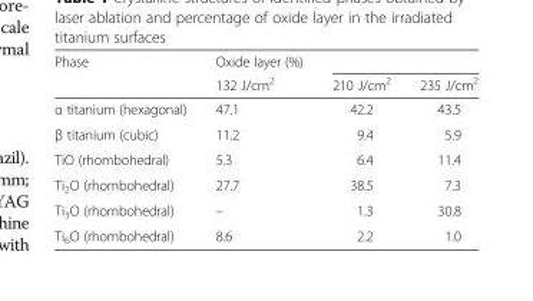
<table><thead><tr><td rowspan="2">Phase</td><td rowspan="2">Oxide layer (%) 132 J/cm<sup>2</sup></td><td rowspan="2">210 J/cm<sup>2</sup></td><td rowspan="2">235 J/cm<sup>2</sup></td></tr><tr></tr></thead><tbody><tr><td>α titanium (hexagonal)</td><td>47.1</td><td>42.2</td><td>43.5</td></tr><tr><td>β titanium (cubic)</td><td>11.2</td><td>9.4</td><td>5.9</td></tr><tr><td>TiO (rhombohedral)</td><td>5.3</td><td>6.4</td><td>11.4</td></tr><tr><td>Ti<sub>2</sub>O (rhombohedral)</td><td>27.7</td><td>38.5</td><td>7.3</td></tr><tr><td>Ti<sub>3</sub>O (rhombohedral)</td><td>–</td><td>1.3</td><td>30.8</td></tr><tr><td>Ti<sub>6</sub>O (rhombohedral)</td><td>8.6</td><td>2.2</td><td>1.0</td></tr></tbody></table>